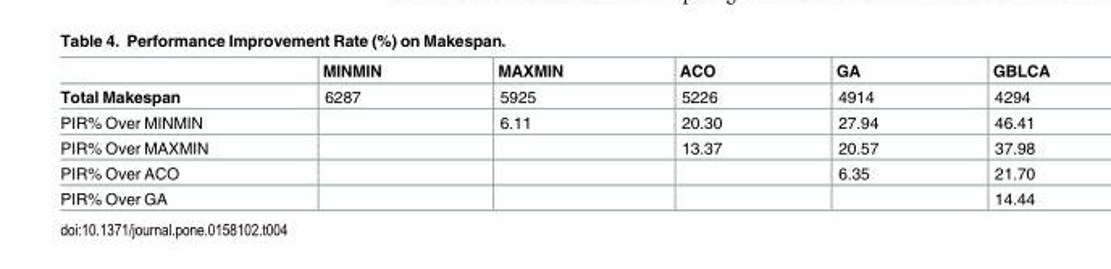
<table><thead><tr><td></td><td>MINMIN</td><td>MAXMIN</td><td>ACO</td><td>GA</td><td>GBLCA</td></tr></thead><tbody><tr><td>Total Makespan</td><td>6287</td><td>5925</td><td>5226</td><td>4914</td><td>4294</td></tr><tr><td>PIR% Over MINMIN</td><td></td><td>6.11</td><td>20.30</td><td>27.94</td><td>46.41</td></tr><tr><td>PIR% Over MAXMIN</td><td></td><td></td><td>13.37</td><td>20.57</td><td>37.98</td></tr><tr><td>PIR% Over ACO</td><td></td><td></td><td></td><td>6.35</td><td>21.70</td></tr><tr><td>PIR% Over GA</td><td></td><td></td><td></td><td></td><td>14.44</td></tr></tbody></table>